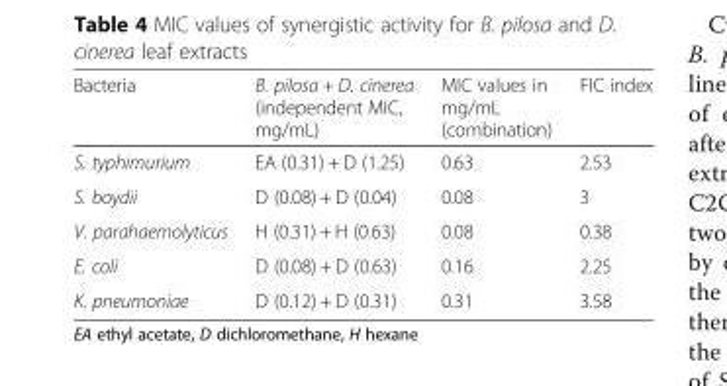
<table><thead><tr><td>Bacteria</td><td>B. pilosa + D. cinerea (independent MIC, mg/mL)</td><td>MIC values in mg/mL (combination)</td><td>FIC index</td></tr></thead><tbody><tr><td>S. typhimurium</td><td>EA (0.31) + D (1.25)</td><td>0.63</td><td>2.53</td></tr><tr><td>S. boydii</td><td>D (0.08) + D (0.04)</td><td>0.08</td><td>3</td></tr><tr><td>V. parahaemolyticus</td><td>H (0.31) + H (0.63)</td><td>0.08</td><td>0.38</td></tr><tr><td>E. coli</td><td>D (0.08) + D (0.63)</td><td>0.16</td><td>2.25</td></tr><tr><td>K. pneumoniae</td><td>D (0.12) + D (0.31)</td><td>0.31</td><td>3.58</td></tr></tbody></table>